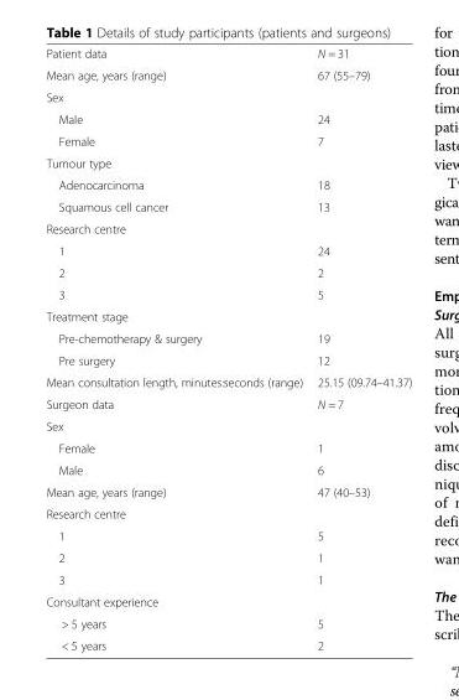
<table><tbody><tr><td>Patient data</td><td>N = 31</td></tr><tr><td>Mean age, years (range)</td><td>67 (55–79)</td></tr><tr><td colspan="2">Sex</td></tr><tr><td>Male</td><td>24</td></tr><tr><td>Female</td><td>7</td></tr><tr><td colspan="2">Tumour type</td></tr><tr><td>Adenocarcinoma</td><td>18</td></tr><tr><td>Squamous cell cancer</td><td>13</td></tr><tr><td colspan="2">Research centre</td></tr><tr><td>1</td><td>24</td></tr><tr><td>2</td><td>2</td></tr><tr><td>3</td><td>5</td></tr><tr><td colspan="2">Treatment stage</td></tr><tr><td>Pre-chemotherapy &amp; surgery</td><td>19</td></tr><tr><td>Pre surgery</td><td>12</td></tr><tr><td>Mean consultation length, minutes:seconds (range)</td><td>25.15 (09.74–41.37)</td></tr><tr><td>Surgeon data</td><td>N = 7</td></tr><tr><td colspan="2">Sex</td></tr><tr><td>Female</td><td>1</td></tr><tr><td>Male</td><td>6</td></tr><tr><td>Mean age, years (range)</td><td>47 (40–53)</td></tr><tr><td colspan="2">Research centre</td></tr><tr><td>1</td><td>5</td></tr><tr><td>2</td><td>1</td></tr><tr><td>3</td><td>1</td></tr><tr><td colspan="2">Consultant experience</td></tr><tr><td>&gt; 5 years</td><td>5</td></tr><tr><td>&lt; 5 years</td><td>2</td></tr></tbody></table>